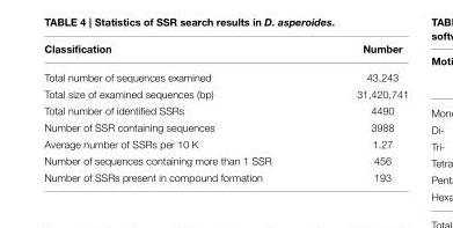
<table><thead><tr><td>Classification</td><td>Number</td></tr></thead><tbody><tr><td>Total number of sequences examined</td><td>43,243</td></tr><tr><td>Total size of examined sequences (bp)</td><td>31,420,741</td></tr><tr><td>Total number of identified SSRs</td><td>4490</td></tr><tr><td>Number of SSR containing sequences</td><td>3988</td></tr><tr><td>Average number of SSRs per 10 K</td><td>1.27</td></tr><tr><td>Number of sequences containing more than 1 SSR</td><td>456</td></tr><tr><td>Number of SSRs present in compound formation</td><td>193</td></tr></tbody></table>